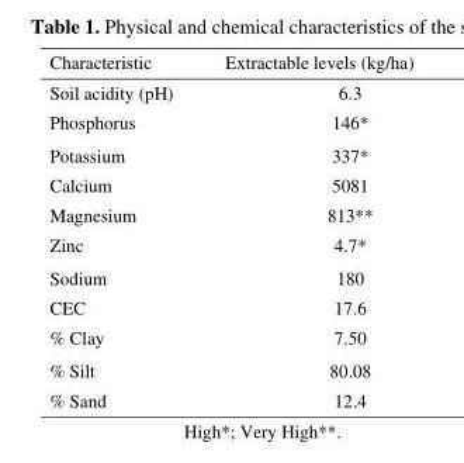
<table><thead><tr><td>Characteristic</td><td>Extractable levels (kg/ha)</td></tr></thead><tbody><tr><td>Soil acidity (pH)</td><td>6.3</td></tr><tr><td>Phosphorus</td><td>146*</td></tr><tr><td>Potassium</td><td>337*</td></tr><tr><td>Calcium</td><td>5081</td></tr><tr><td>Magnesium</td><td>813**</td></tr><tr><td>Zinc</td><td>4.7*</td></tr><tr><td>Sodium</td><td>180</td></tr><tr><td>CEC</td><td>17.6</td></tr><tr><td>% Clay</td><td>7.50</td></tr><tr><td>% Silt</td><td>80.08</td></tr><tr><td>% Sand</td><td>12.4</td></tr></tbody></table>